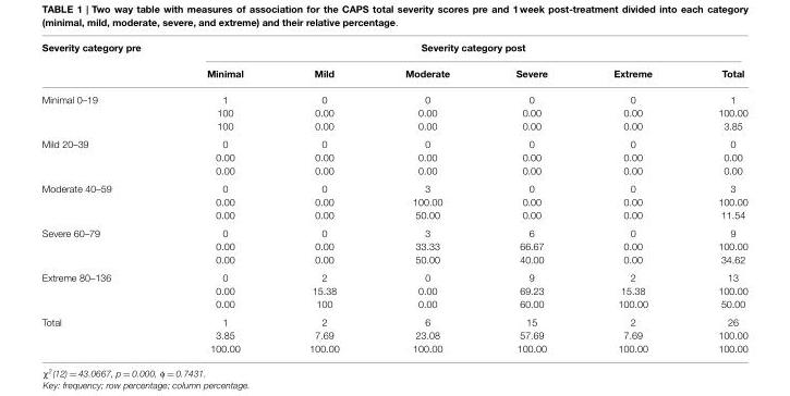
<table><thead><tr><td rowspan="2">Severity category pre</td><td colspan="6">Severity category post</td></tr><tr><td>Minimal</td><td>Mild</td><td>Moderate</td><td>Severe</td><td>Extreme</td><td>Total</td></tr></thead><tbody><tr><td rowspan="3">Minimal 0–19</td><td>1</td><td>0</td><td>0</td><td>0</td><td>0</td><td>1</td></tr><tr><td>100</td><td>0.00</td><td>0.00</td><td>0.00</td><td>0.00</td><td>100.00</td></tr><tr><td>100</td><td>0.00</td><td>0.00</td><td>0.00</td><td>0.00</td><td>3.85</td></tr><tr><td rowspan="3">Mild 20–39</td><td>0</td><td>0</td><td>0</td><td>0</td><td>0</td><td>0</td></tr><tr><td>0.00</td><td>0.00</td><td>0.00</td><td>0.00</td><td>0.00</td><td>0.00</td></tr><tr><td>0.00</td><td>0.00</td><td>0.00</td><td>0.00</td><td>0.00</td><td>0.00</td></tr><tr><td rowspan="3">Moderate 40–59</td><td>0</td><td>0</td><td>3</td><td>0</td><td>0</td><td>3</td></tr><tr><td>0.00</td><td>0.00</td><td>100.00</td><td>0.00</td><td>0.00</td><td>100.00</td></tr><tr><td>0.00</td><td>0.00</td><td>50.00</td><td>0.00</td><td>0.00</td><td>11.54</td></tr><tr><td rowspan="3">Severe 60–79</td><td>0</td><td>0</td><td>3</td><td>6</td><td>0</td><td>9</td></tr><tr><td>0.00</td><td>0.00</td><td>33.33</td><td>66.67</td><td>0.00</td><td>100.00</td></tr><tr><td>0.00</td><td>0.00</td><td>50.00</td><td>40.00</td><td>0.00</td><td>34.62</td></tr><tr><td rowspan="3">Extreme 80–136</td><td>0</td><td>2</td><td>0</td><td>9</td><td>2</td><td>13</td></tr><tr><td>0.00</td><td>15.38</td><td>0.00</td><td>69.23</td><td>15.38</td><td>100.00</td></tr><tr><td>0.00</td><td>100</td><td>0.00</td><td>60.00</td><td>100.00</td><td>50.00</td></tr><tr><td rowspan="3">Total</td><td>1</td><td>2</td><td>6</td><td>15</td><td>2</td><td>26</td></tr><tr><td>3.85</td><td>7.69</td><td>23.08</td><td>57.69</td><td>7.69</td><td>100.00</td></tr><tr><td>100.00</td><td>100.00</td><td>100.00</td><td>100.00</td><td>100.00</td><td>100.00</td></tr></tbody></table>